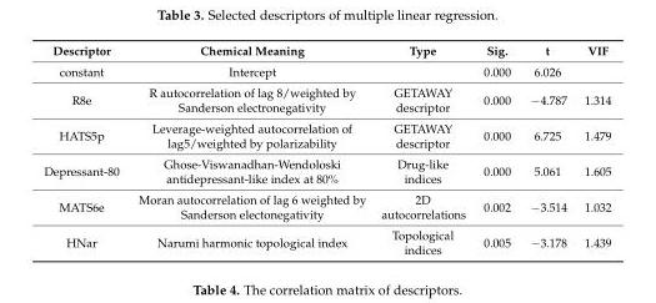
<table><thead><tr><td>Descriptor</td><td>Chemical Meaning</td><td>Type</td><td>Sig.</td><td>t</td><td>VIF</td></tr></thead><tbody><tr><td>constant</td><td>Intercept</td><td></td><td>0.000</td><td>6.026</td><td></td></tr><tr><td>R8e</td><td>R autocorrelation of lag 8/weighted by Sanderson electronegativity</td><td>GETAWAY descriptor</td><td>0.000</td><td>−4.787</td><td>1.314</td></tr><tr><td>HATS5p</td><td>Leverage-weighted autocorrelation of lag5/weighted by polarizability</td><td>GETAWAY descriptor</td><td>0.000</td><td>6.725</td><td>1.479</td></tr><tr><td>Depressant-80</td><td>Ghose-Viswanadhan-Wendoloski antidepressant-like index at 80%</td><td>Drug-like indices</td><td>0.000</td><td>5.061</td><td>1.605</td></tr><tr><td>MATS6e</td><td>Moran autocorrelation of lag 6 weighted by Sanderson electonegativity</td><td>2D autocorrelations</td><td>0.002</td><td>−3.514</td><td>1.032</td></tr><tr><td>HNar</td><td>Narumi harmonic topological index</td><td>Topological indices</td><td>0.005</td><td>−3.178</td><td>1.439</td></tr></tbody></table>